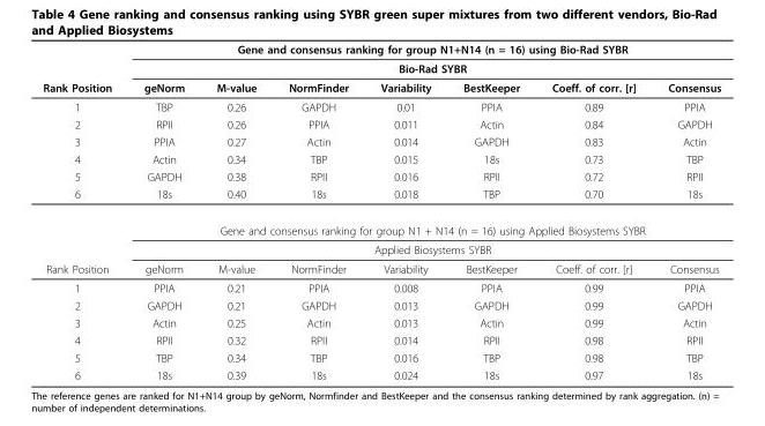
<table><thead><tr><td rowspan="3">Rank Position</td><td rowspan="2" colspan="7">Gene and consensus ranking for group N1+N14 (n = 16) using Bio-Rad SYBR Bio-Rad SYBR</td></tr><tr></tr><tr><td>geNorm</td><td>M-value</td><td>NormFinder</td><td>Variability</td><td>BestKeeper</td><td>Coeff. of corr. [r]</td><td>Consensus</td></tr></thead><tbody><tr><td>1</td><td>TBP</td><td>0.26</td><td>GAPDH</td><td>0.01</td><td>PPIA</td><td>0.89</td><td>PPIA</td></tr><tr><td>2</td><td>RPII</td><td>0.26</td><td>PPIA</td><td>0.011</td><td>Actin</td><td>0.84</td><td>GAPDH</td></tr><tr><td>3</td><td>PPIA</td><td>0.27</td><td>Actin</td><td>0.014</td><td>GAPDH</td><td>0.83</td><td>Actin</td></tr><tr><td>4</td><td>Actin</td><td>0.34</td><td>TBP</td><td>0.015</td><td>18s</td><td>0.73</td><td>TBP</td></tr><tr><td>5</td><td>GAPDH</td><td>0.38</td><td>RPII</td><td>0.016</td><td>RPII</td><td>0.72</td><td>RPII</td></tr><tr><td rowspan="3">6</td><td>18s</td><td>0.40</td><td>18s</td><td>0.018</td><td>TBP</td><td>0.70</td><td>18s</td></tr><tr><td colspan="7">Gene and consensus ranking for group N1 + N14 (n = 16) using Applied Biosystems SYBR</td></tr><tr><td colspan="7">Applied Biosystems SYBR</td></tr><tr><td>Rank Position</td><td>geNorm</td><td>M-value</td><td>NormFinder</td><td>Variability</td><td>BestKeeper</td><td>Coeff. of corr. [r]</td><td>Consensus</td></tr><tr><td>1</td><td>PPIA</td><td>0.21</td><td>PPIA</td><td>0.008</td><td>PPIA</td><td>0.99</td><td>PPIA</td></tr><tr><td>2</td><td>GAPDH</td><td>0.21</td><td>GAPDH</td><td>0.013</td><td>GAPDH</td><td>0.99</td><td>GAPDH</td></tr><tr><td>3</td><td>Actin</td><td>0.25</td><td>Actin</td><td>0.013</td><td>Actin</td><td>0.99</td><td>Actin</td></tr><tr><td>4</td><td>RPII</td><td>0.32</td><td>RPII</td><td>0.014</td><td>RPII</td><td>0.98</td><td>RPII</td></tr><tr><td>5</td><td>TBP</td><td>0.34</td><td>TBP</td><td>0.016</td><td>TBP</td><td>0.98</td><td>TBP</td></tr><tr><td>6</td><td>18s</td><td>0.39</td><td>18s</td><td>0.024</td><td>18s</td><td>0.97</td><td>18s</td></tr></tbody></table>